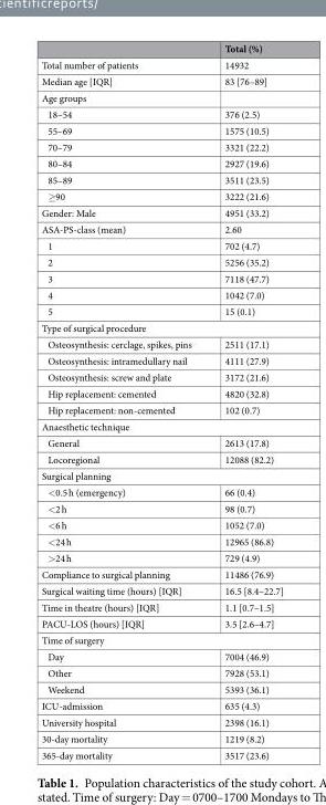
<table><thead><tr><td></td><td>Total (%)</td></tr></thead><tbody><tr><td>Total number of patients</td><td>14932</td></tr><tr><td>Median age [IQR]</td><td>83 [76–89]</td></tr><tr><td colspan="2">Age groups</td></tr><tr><td>18–54</td><td>376 (2.5)</td></tr><tr><td>55–69</td><td>1575 (10.5)</td></tr><tr><td>70–79</td><td>3321 (22.2)</td></tr><tr><td>80–84</td><td>2927 (19.6)</td></tr><tr><td>85–89</td><td>3511 (23.5)</td></tr><tr><td>≥90</td><td>3222 (21.6)</td></tr><tr><td>Gender: Male</td><td>4951 (33.2)</td></tr><tr><td>ASA-PS-class (mean)</td><td>2.60</td></tr><tr><td>1</td><td>702 (4.7)</td></tr><tr><td>2</td><td>5256 (35.2)</td></tr><tr><td>3</td><td>7118 (47.7)</td></tr><tr><td>4</td><td>1042 (7.0)</td></tr><tr><td>5</td><td>15 (0.1)</td></tr><tr><td colspan="2">Type of surgical procedure</td></tr><tr><td>Osteosynthesis: cerclage, spikes, pins</td><td>2511 (17.1)</td></tr><tr><td>Osteosynthesis: intramedullary nail</td><td>4111 (27.9)</td></tr><tr><td>Osteosynthesis: screw and plate</td><td>3172 (21.6)</td></tr><tr><td>Hip replacement: cemented</td><td>4820 (32.8)</td></tr><tr><td>Hip replacement: non-cemented</td><td>102 (0.7)</td></tr><tr><td colspan="2">Anaesthetic technique</td></tr><tr><td>General</td><td>2613 (17.8)</td></tr><tr><td>Locoregional</td><td>12088 (82.2)</td></tr><tr><td colspan="2">Surgical planning</td></tr><tr><td>&lt;0.5 h (emergency)</td><td>66 (0.4)</td></tr><tr><td>&lt;2 h</td><td>98 (0.7)</td></tr><tr><td>&lt;6 h</td><td>1052 (7.0)</td></tr><tr><td>&lt;24 h</td><td>12965 (86.8)</td></tr><tr><td>&gt;24 h</td><td>729 (4.9)</td></tr><tr><td>Compliance to surgical planning</td><td>11486 (76.9)</td></tr><tr><td>Surgical waiting time (hours) [IQR]</td><td>16.5 [8.4–22.7]</td></tr><tr><td>Time in theatre (hours) [IQR]</td><td>1.1 [0.7–1.5]</td></tr><tr><td>PACU-LOS (hours) [IQR]</td><td>3.5 [2.6–4.7]</td></tr><tr><td colspan="2">Time of surgery</td></tr><tr><td>Day</td><td>7004 (46.9)</td></tr><tr><td>Other</td><td>7928 (53.1)</td></tr><tr><td>Weekend</td><td>5393 (36.1)</td></tr><tr><td>ICU-admission</td><td>635 (4.3)</td></tr><tr><td>University hospital</td><td>2398 (16.1)</td></tr><tr><td>30-day mortality</td><td>1219 (8.2)</td></tr><tr><td>365-day mortality</td><td>3517 (23.6)</td></tr></tbody></table>